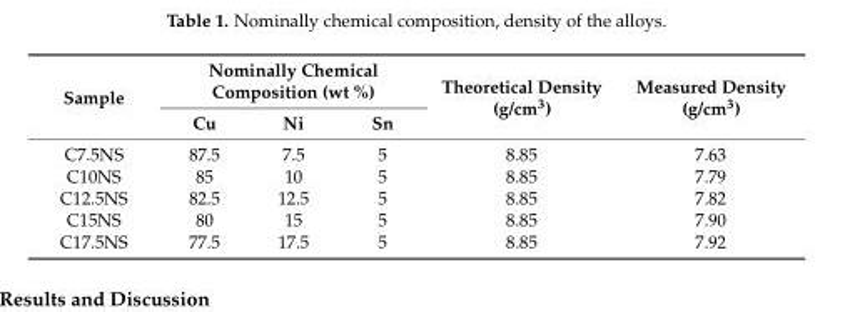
<table><thead><tr><td rowspan="2">Sample</td><td colspan="3">Nominally Chemical Composition (wt %)</td><td rowspan="2">Theoretical Density (g/cm<sup>3</sup>)</td><td rowspan="2">Measured Density (g/cm<sup>3</sup>)</td></tr><tr><td>Cu</td><td>Ni</td><td>Sn</td></tr></thead><tbody><tr><td>C7.5NS</td><td>87.5</td><td>7.5</td><td>5</td><td>8.85</td><td>7.63</td></tr><tr><td>C10NS</td><td>85</td><td>10</td><td>5</td><td>8.85</td><td>7.79</td></tr><tr><td>C12.5NS</td><td>82.5</td><td>12.5</td><td>5</td><td>8.85</td><td>7.82</td></tr><tr><td>C15NS</td><td>80</td><td>15</td><td>5</td><td>8.85</td><td>7.90</td></tr><tr><td>C17.5NS</td><td>77.5</td><td>17.5</td><td>5</td><td>8.85</td><td>7.92</td></tr></tbody></table>